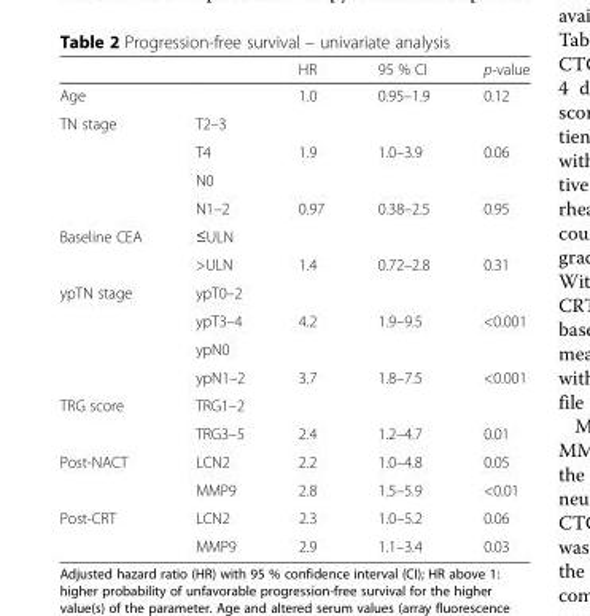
<table><thead><tr><td></td><td></td><td>HR</td><td>95 % CI</td><td>p-value</td></tr></thead><tbody><tr><td>Age</td><td></td><td>1.0</td><td>0.95–1.9</td><td>0.12</td></tr><tr><td rowspan="4">TN stage</td><td>T2–3</td><td></td><td></td><td></td></tr><tr><td>T4</td><td>1.9</td><td>1.0–3.9</td><td>0.06</td></tr><tr><td>N0</td><td></td><td></td><td></td></tr><tr><td>N1–2</td><td>0.97</td><td>0.38–2.5</td><td>0.95</td></tr><tr><td rowspan="2">Baseline CEA</td><td>≤ULN</td><td></td><td></td><td></td></tr><tr><td>&gt;ULN</td><td>1.4</td><td>0.72–2.8</td><td>0.31</td></tr><tr><td rowspan="4">ypTN stage</td><td>ypT0–2</td><td></td><td></td><td></td></tr><tr><td>ypT3–4</td><td>4.2</td><td>1.9–9.5</td><td>&lt;0.001</td></tr><tr><td>ypN0</td><td></td><td></td><td></td></tr><tr><td>ypN1–2</td><td>3.7</td><td>1.8–7.5</td><td>&lt;0.001</td></tr><tr><td rowspan="2">TRG score</td><td>TRG1–2</td><td></td><td></td><td></td></tr><tr><td>TRG3–5</td><td>2.4</td><td>1.2–4.7</td><td>0.01</td></tr><tr><td rowspan="2">Post-NACT</td><td>LCN2</td><td>2.2</td><td>1.0–4.8</td><td>0.05</td></tr><tr><td>MMP9</td><td>2.8</td><td>1.5–5.9</td><td>&lt;0.01</td></tr><tr><td rowspan="2">Post-CRT</td><td>LCN2</td><td>2.3</td><td>1.0–5.2</td><td>0.06</td></tr><tr><td>MMP9</td><td>2.9</td><td>1.1–3.4</td><td>0.03</td></tr></tbody></table>